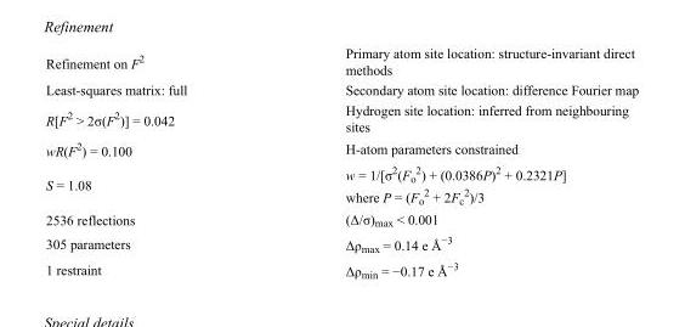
<table><tbody><tr><td>Refinement on F<sup>2</sup></td><td>Primary atom site location: structure-invariant direct methods</td></tr><tr><td>Least-squares matrix: full</td><td>Secondary atom site location: difference Fourier map</td></tr><tr><td>R[F<sup>2</sup> &gt; 2σ(F<sup>2</sup>)] = 0.042</td><td>Hydrogen site location: inferred from neighbouring sites</td></tr><tr><td>wR(F<sup>2</sup>) = 0.100</td><td>H-atom parameters constrained</td></tr><tr><td>S = 1.08</td><td>w = 1/[σ<sup>2</sup>(F<sub>o</sub> <sup>2</sup>) + (0.0386P)<sup>2</sup> + 0.2321P] where P = (F<sub>o</sub> <sup>2</sup> + 2F<sub>c</sub> <sup>2</sup>)/3</td></tr><tr><td>2536 reflections</td><td>(Δ/σ)<sub>max</sub> &lt; 0.001</td></tr><tr><td>305 parameters</td><td>Δρ<sub>max</sub> = 0.14 e Å<sup>−3</sup></td></tr><tr><td>1 restraint</td><td>Δρ<sub>min</sub> = −0.17 e Å<sup>−3</sup></td></tr></tbody></table>